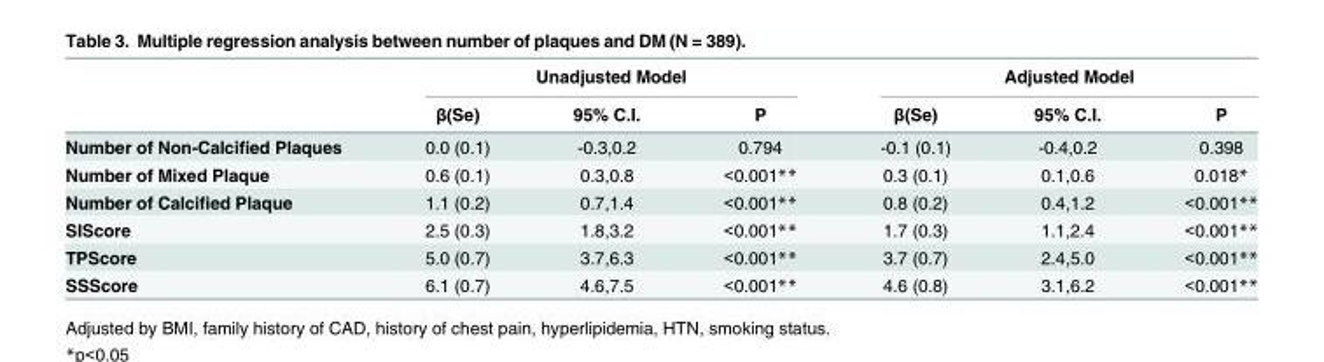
<table><thead><tr><td rowspan="2"></td><td colspan="3">Unadjusted Model</td><td colspan="3">Adjusted Model</td></tr><tr><td>β(Se)</td><td>95% C.I.</td><td>P</td><td>β(Se)</td><td>95% C.I.</td><td>P</td></tr></thead><tbody><tr><td>Number of Non-Calcified Plaques</td><td>0.0 (0.1)</td><td>-0.3,0.2</td><td>0.794</td><td>-0.1 (0.1)</td><td>-0.4,0.2</td><td>0.398</td></tr><tr><td>Number of Mixed Plaque</td><td>0.6 (0.1)</td><td>0.3,0.8</td><td>&lt;0.001**</td><td>0.3 (0.1)</td><td>0.1,0.6</td><td>0.018*</td></tr><tr><td>Number of Calcified Plaque</td><td>1.1 (0.2)</td><td>0.7,1.4</td><td>&lt;0.001**</td><td>0.8 (0.2)</td><td>0.4,1.2</td><td>&lt;0.001**</td></tr><tr><td>SIScore</td><td>2.5 (0.3)</td><td>1.8,3.2</td><td>&lt;0.001**</td><td>1.7 (0.3)</td><td>1.1,2.4</td><td>&lt;0.001**</td></tr><tr><td>TPScore</td><td>5.0 (0.7)</td><td>3.7,6.3</td><td>&lt;0.001**</td><td>3.7 (0.7)</td><td>2.4,5.0</td><td>&lt;0.001**</td></tr><tr><td>SSScore</td><td>6.1 (0.7)</td><td>4.6,7.5</td><td>&lt;0.001**</td><td>4.6 (0.8)</td><td>3.1,6.2</td><td>&lt;0.001**</td></tr></tbody></table>